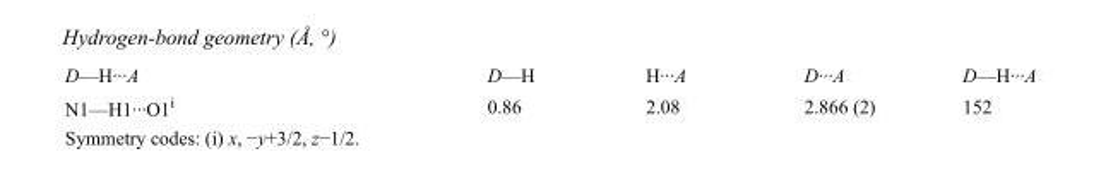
<table><tbody><tr><td>D—H···A</td><td>D—H</td><td>H···A</td><td>D···A</td><td>D—H···A</td></tr><tr><td>N1—H1···O1<sup>i</sup></td><td>0.86</td><td>2.08</td><td>2.866 (2)</td><td>152</td></tr></tbody></table>